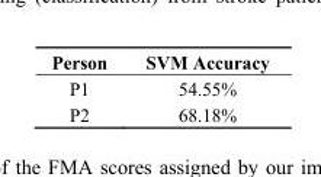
<table><thead><tr><td>Person</td><td>SVM Accuracy</td></tr></thead><tbody><tr><td>P1</td><td>54.55%</td></tr><tr><td>P2</td><td>68.18%</td></tr></tbody></table>